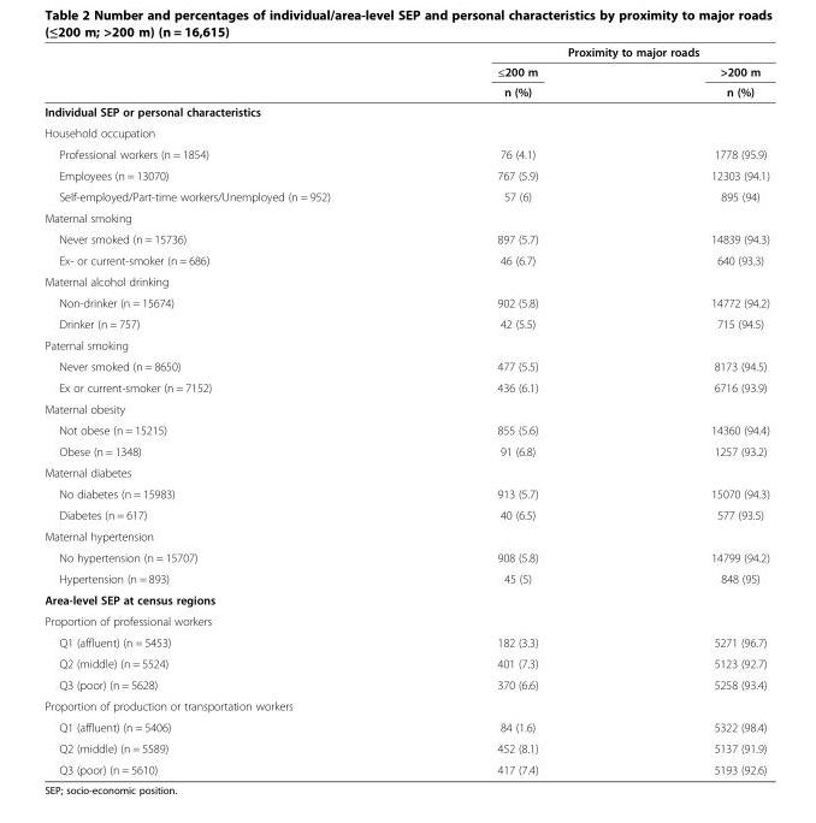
<table><thead><tr><td rowspan="3"></td><td colspan="2">Proximity to major roads</td></tr><tr><td rowspan="2">≤200 m n (%)</td><td rowspan="2">&gt;200 m n (%)</td></tr><tr></tr></thead><tbody><tr><td colspan="3">Individual SEP or personal characteristics</td></tr><tr><td colspan="3">Household occupation</td></tr><tr><td>Professional workers (n = 1854)</td><td>76 (4.1)</td><td>1778 (95.9)</td></tr><tr><td>Employees (n = 13070)</td><td>767 (5.9)</td><td>12303 (94.1)</td></tr><tr><td>Self-employed/Part-time workers/Unemployed (n = 952)</td><td>57 (6)</td><td>895 (94)</td></tr><tr><td colspan="3">Maternal smoking</td></tr><tr><td>Never smoked (n = 15736)</td><td>897 (5.7)</td><td>14839 (94.3)</td></tr><tr><td>Ex- or current-smoker (n = 686)</td><td>46 (6.7)</td><td>640 (93.3)</td></tr><tr><td colspan="3">Maternal alcohol drinking</td></tr><tr><td>Non-drinker (n = 15674)</td><td>902 (5.8)</td><td>14772 (94.2)</td></tr><tr><td>Drinker (n = 757)</td><td>42 (5.5)</td><td>715 (94.5)</td></tr><tr><td colspan="3">Paternal smoking</td></tr><tr><td>Never smoked (n = 8650)</td><td>477 (5.5)</td><td>8173 (94.5)</td></tr><tr><td>Ex or current-smoker (n = 7152)</td><td>436 (6.1)</td><td>6716 (93.9)</td></tr><tr><td colspan="3">Maternal obesity</td></tr><tr><td>Not obese (n = 15215)</td><td>855 (5.6)</td><td>14360 (94.4)</td></tr><tr><td>Obese (n = 1348)</td><td>91 (6.8)</td><td>1257 (93.2)</td></tr><tr><td colspan="3">Maternal diabetes</td></tr><tr><td>No diabetes (n = 15983)</td><td>913 (5.7)</td><td>15070 (94.3)</td></tr><tr><td>Diabetes (n = 617)</td><td>40 (6.5)</td><td>577 (93.5)</td></tr><tr><td colspan="3">Maternal hypertension</td></tr><tr><td>No hypertension (n = 15707)</td><td>908 (5.8)</td><td>14799 (94.2)</td></tr><tr><td>Hypertension (n = 893)</td><td>45 (5)</td><td>848 (95)</td></tr><tr><td colspan="3">Area-level SEP at census regions</td></tr><tr><td colspan="3">Proportion of professional workers</td></tr><tr><td>Q1 (affluent) (n = 5453)</td><td>182 (3.3)</td><td>5271 (96.7)</td></tr><tr><td>Q2 (middle) (n = 5524)</td><td>401 (7.3)</td><td>5123 (92.7)</td></tr><tr><td>Q3 (poor) (n = 5628)</td><td>370 (6.6)</td><td>5258 (93.4)</td></tr><tr><td colspan="3">Proportion of production or transportation workers</td></tr><tr><td>Q1 (affluent) (n = 5406)</td><td>84 (1.6)</td><td>5322 (98.4)</td></tr><tr><td>Q2 (middle) (n = 5589)</td><td>452 (8.1)</td><td>5137 (91.9)</td></tr><tr><td>Q3 (poor) (n = 5610)</td><td>417 (7.4)</td><td>5193 (92.6)</td></tr></tbody></table>